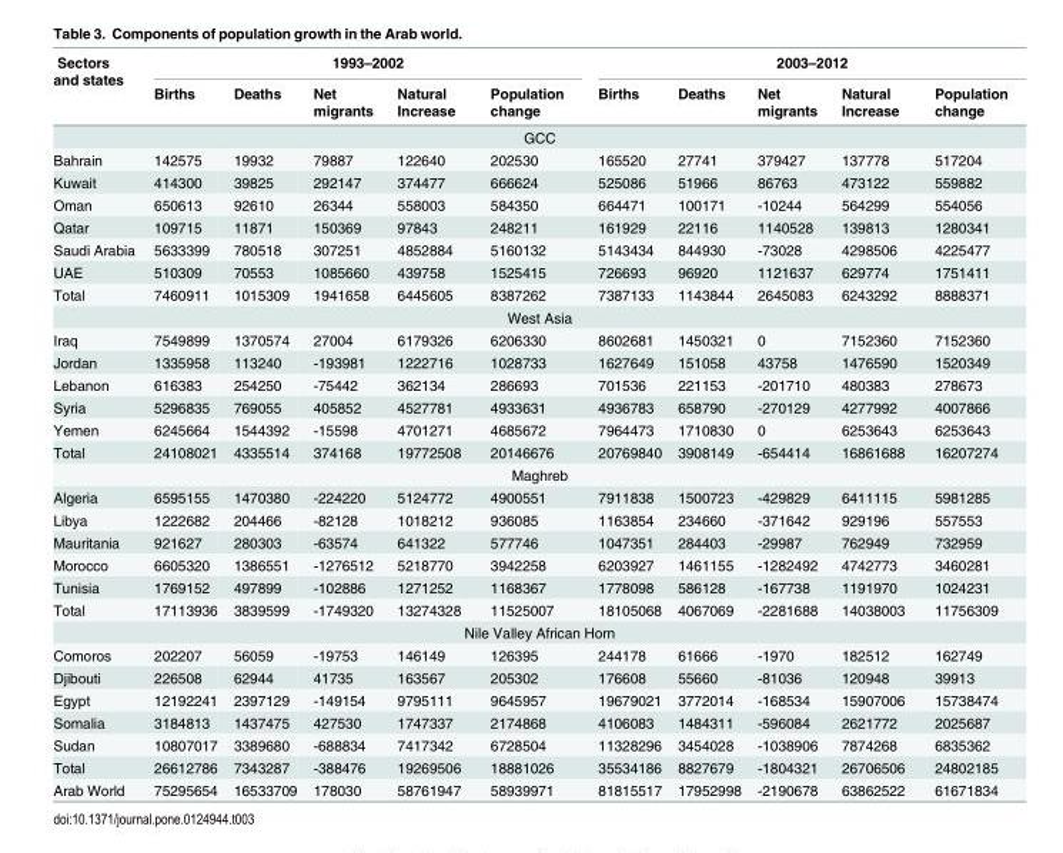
<table><thead><tr><td rowspan="2">Sectors and states</td><td colspan="5">1993–2002</td><td colspan="5">2003–2012</td></tr><tr><td>Births</td><td>Deaths</td><td>Net migrants</td><td>Natural Increase</td><td>Population change</td><td>Births</td><td>Deaths</td><td>Net migrants</td><td>Natural Increase</td><td>Population change</td></tr></thead><tbody><tr><td colspan="11">GCC</td></tr><tr><td>Bahrain</td><td>142575</td><td>19932</td><td>79887</td><td>122640</td><td>202530</td><td>165520</td><td>27741</td><td>379427</td><td>137778</td><td>517204</td></tr><tr><td>Kuwait</td><td>414300</td><td>39825</td><td>292147</td><td>374477</td><td>666624</td><td>525086</td><td>51966</td><td>86763</td><td>473122</td><td>559882</td></tr><tr><td>Oman</td><td>650613</td><td>92610</td><td>26344</td><td>558003</td><td>584350</td><td>664471</td><td>100171</td><td>-10244</td><td>564299</td><td>554056</td></tr><tr><td>Qatar</td><td>109715</td><td>11871</td><td>150369</td><td>97843</td><td>248211</td><td>161929</td><td>22116</td><td>1140528</td><td>139813</td><td>1280341</td></tr><tr><td>Saudi Arabia</td><td>5633399</td><td>780518</td><td>307251</td><td>4852884</td><td>5160132</td><td>5143434</td><td>844930</td><td>-73028</td><td>4298506</td><td>4225477</td></tr><tr><td>UAE</td><td>510309</td><td>70553</td><td>1085660</td><td>439758</td><td>1525415</td><td>726693</td><td>96920</td><td>1121637</td><td>629774</td><td>1751411</td></tr><tr><td>Total</td><td>7460911</td><td>1015309</td><td>1941658</td><td>6445605</td><td>8387262</td><td>7387133</td><td>1143844</td><td>2645083</td><td>6243292</td><td>8888371</td></tr><tr><td colspan="11">West Asia</td></tr><tr><td>Iraq</td><td>7549899</td><td>1370574</td><td>27004</td><td>6179326</td><td>6206330</td><td>8602681</td><td>1450321</td><td>0</td><td>7152360</td><td>7152360</td></tr><tr><td>Jordan</td><td>1335958</td><td>113240</td><td>-193981</td><td>1222716</td><td>1028733</td><td>1627649</td><td>151058</td><td>43758</td><td>1476590</td><td>1520349</td></tr><tr><td>Lebanon</td><td>616383</td><td>254250</td><td>-75442</td><td>362134</td><td>286693</td><td>701536</td><td>221153</td><td>-201710</td><td>480383</td><td>278673</td></tr><tr><td>Syria</td><td>5296835</td><td>769055</td><td>405852</td><td>4527781</td><td>4933631</td><td>4936783</td><td>658790</td><td>-270129</td><td>4277992</td><td>4007866</td></tr><tr><td>Yemen</td><td>6245664</td><td>1544392</td><td>-15598</td><td>4701271</td><td>4685672</td><td>7964473</td><td>1710830</td><td>0</td><td>6253643</td><td>6253643</td></tr><tr><td>Total</td><td>24108021</td><td>4335514</td><td>374168</td><td>19772508</td><td>20146676</td><td>20769840</td><td>3908149</td><td>-654414</td><td>16861688</td><td>16207274</td></tr><tr><td colspan="11">Maghreb</td></tr><tr><td>Algeria</td><td>6595155</td><td>1470380</td><td>-224220</td><td>5124772</td><td>4900551</td><td>7911838</td><td>1500723</td><td>-429829</td><td>6411115</td><td>5981285</td></tr><tr><td>Libya</td><td>1222682</td><td>204466</td><td>-82128</td><td>1018212</td><td>936085</td><td>1163854</td><td>234660</td><td>-371642</td><td>929196</td><td>557553</td></tr><tr><td>Mauritania</td><td>921627</td><td>280303</td><td>-63574</td><td>641322</td><td>577746</td><td>1047351</td><td>284403</td><td>-29987</td><td>762949</td><td>732959</td></tr><tr><td>Morocco</td><td>6605320</td><td>1386551</td><td>-1276512</td><td>5218770</td><td>3942258</td><td>6203927</td><td>1461155</td><td>-1282492</td><td>4742773</td><td>3460281</td></tr><tr><td>Tunisia</td><td>1769152</td><td>497899</td><td>-102886</td><td>1271252</td><td>1168367</td><td>1778098</td><td>586128</td><td>-167738</td><td>1191970</td><td>1024231</td></tr><tr><td>Total</td><td>17113936</td><td>3839599</td><td>-1749320</td><td>13274328</td><td>11525007</td><td>18105068</td><td>4067069</td><td>-2281688</td><td>14038003</td><td>11756309</td></tr><tr><td colspan="11">Nile Valley African Horn</td></tr><tr><td>Comoros</td><td>202207</td><td>56059</td><td>-19753</td><td>146149</td><td>126395</td><td>244178</td><td>61666</td><td>-1970</td><td>182512</td><td>162749</td></tr><tr><td>Djibouti</td><td>226508</td><td>62944</td><td>41735</td><td>163567</td><td>205302</td><td>176608</td><td>55660</td><td>-81036</td><td>120948</td><td>39913</td></tr><tr><td>Egypt</td><td>12192241</td><td>2397129</td><td>-149154</td><td>9795111</td><td>9645957</td><td>19679021</td><td>3772014</td><td>-168534</td><td>15907006</td><td>15738474</td></tr><tr><td>Somalia</td><td>3184813</td><td>1437475</td><td>427530</td><td>1747337</td><td>2174868</td><td>4106083</td><td>1484311</td><td>-596084</td><td>2621772</td><td>2025687</td></tr><tr><td>Sudan</td><td>10807017</td><td>3389680</td><td>-688834</td><td>7417342</td><td>6728504</td><td>11328296</td><td>3454028</td><td>-1038906</td><td>7874268</td><td>6835362</td></tr><tr><td>Total</td><td>26612786</td><td>7343287</td><td>-388476</td><td>19269506</td><td>18881026</td><td>35534186</td><td>8827679</td><td>-1804321</td><td>26706506</td><td>24802185</td></tr><tr><td>Arab World</td><td>75295654</td><td>16533709</td><td>178030</td><td>58761947</td><td>58939971</td><td>81815517</td><td>17952998</td><td>-2190678</td><td>63862522</td><td>61671834</td></tr></tbody></table>